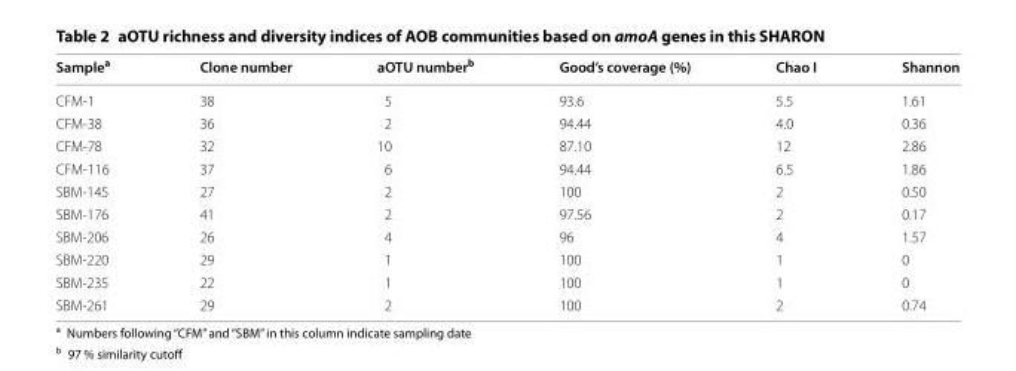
<table><thead><tr><td>Sample<sup>a</sup></td><td>Clone number</td><td>aOTU number<sup>b</sup></td><td>Good’s coverage (%)</td><td>Chao I</td><td>Shannon</td></tr></thead><tbody><tr><td>CFM‑1</td><td>38</td><td>5</td><td>93.6</td><td>5.5</td><td>1.61</td></tr><tr><td>CFM‑38</td><td>36</td><td>2</td><td>94.44</td><td>4.0</td><td>0.36</td></tr><tr><td>CFM‑78</td><td>32</td><td>10</td><td>87.10</td><td>12</td><td>2.86</td></tr><tr><td>CFM‑116</td><td>37</td><td>6</td><td>94.44</td><td>6.5</td><td>1.86</td></tr><tr><td>SBM‑145</td><td>27</td><td>2</td><td>100</td><td>2</td><td>0.50</td></tr><tr><td>SBM‑176</td><td>41</td><td>2</td><td>97.56</td><td>2</td><td>0.17</td></tr><tr><td>SBM‑206</td><td>26</td><td>4</td><td>96</td><td>4</td><td>1.57</td></tr><tr><td>SBM‑220</td><td>29</td><td>1</td><td>100</td><td>1</td><td>0</td></tr><tr><td>SBM‑235</td><td>22</td><td>1</td><td>100</td><td>1</td><td>0</td></tr><tr><td>SBM‑261</td><td>29</td><td>2</td><td>100</td><td>2</td><td>0.74</td></tr></tbody></table>